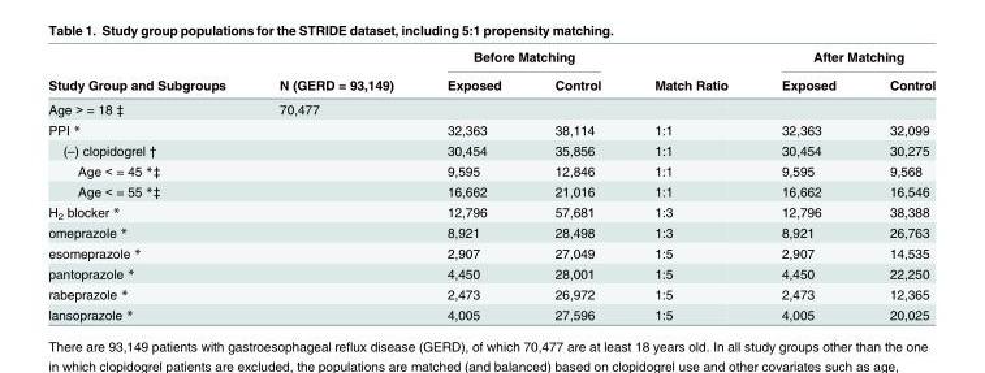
<table><thead><tr><td rowspan="2">Study Group and Subgroups</td><td rowspan="2">N (GERD = 93,149)</td><td colspan="2">Before Matching</td><td rowspan="2">Match Ratio</td><td colspan="2">After Matching</td></tr><tr><td>Exposed</td><td>Control</td><td>Exposed</td><td>Control</td></tr></thead><tbody><tr><td>Age &gt; = 18 ‡</td><td>70,477</td><td></td><td></td><td></td><td></td><td></td></tr><tr><td>PPI *</td><td></td><td>32,363</td><td>38,114</td><td>1:1</td><td>32,363</td><td>32,099</td></tr><tr><td>(–) clopidogrel †</td><td></td><td>30,454</td><td>35,856</td><td>1:1</td><td>30,454</td><td>30,275</td></tr><tr><td>Age &lt; = 45 *‡</td><td></td><td>9,595</td><td>12,846</td><td>1:1</td><td>9,595</td><td>9,568</td></tr><tr><td>Age &lt; = 55 *‡</td><td></td><td>16,662</td><td>21,016</td><td>1:1</td><td>16,662</td><td>16,546</td></tr><tr><td>H<sub>2</sub> blocker *</td><td></td><td>12,796</td><td>57,681</td><td>1:3</td><td>12,796</td><td>38,388</td></tr><tr><td>omeprazole *</td><td></td><td>8,921</td><td>28,498</td><td>1:3</td><td>8,921</td><td>26,763</td></tr><tr><td>esomeprazole *</td><td></td><td>2,907</td><td>27,049</td><td>1:5</td><td>2,907</td><td>14,535</td></tr><tr><td>pantoprazole *</td><td></td><td>4,450</td><td>28,001</td><td>1:5</td><td>4,450</td><td>22,250</td></tr><tr><td>rabeprazole *</td><td></td><td>2,473</td><td>26,972</td><td>1:5</td><td>2,473</td><td>12,365</td></tr><tr><td>lansoprazole *</td><td></td><td>4,005</td><td>27,596</td><td>1:5</td><td>4,005</td><td>20,025</td></tr></tbody></table>